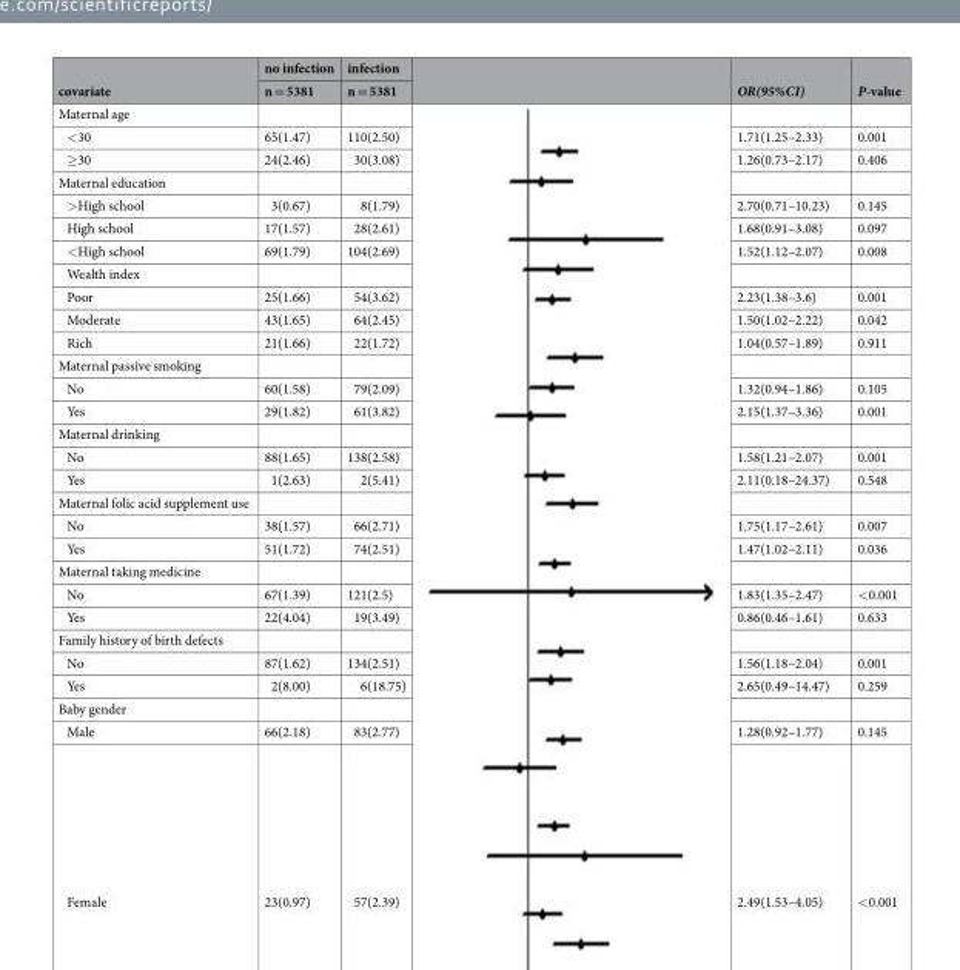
<table><thead><tr><td rowspan="2">covariate</td><td rowspan="2">no infection n = 5381</td><td rowspan="2">infection n = 5381</td><td rowspan="2">OR(95%CI)</td><td rowspan="2">P-value</td></tr><tr></tr></thead><tbody><tr><td colspan="5">Maternal age</td></tr><tr><td>&lt;30</td><td>65(1.47)</td><td>110(2.50)</td><td>1.71(1.25–2.33)</td><td>0.001</td></tr><tr><td>≥30</td><td>24(2.46)</td><td>30(3.08)</td><td>1.26(0.73–2.17)</td><td>0.406</td></tr><tr><td colspan="5">Maternal education</td></tr><tr><td>&gt;High school</td><td>3(0.67)</td><td>8(1.79)</td><td>2.70(0.71–10.23)</td><td>0.145</td></tr><tr><td>High school</td><td>17(1.57)</td><td>28(2.61)</td><td>1.68(0.91–3.08)</td><td>0.097</td></tr><tr><td>&lt;High school</td><td>69(1.79)</td><td>104(2.69)</td><td>1.52(1.12–2.07)</td><td>0.008</td></tr><tr><td colspan="5">Wealth index</td></tr><tr><td>Poor</td><td>25(1.66)</td><td>54(3.62)</td><td>2.23(1.38–3.6)</td><td>0.001</td></tr><tr><td>Moderate</td><td>43(1.65)</td><td>64(2.45)</td><td>1.50(1.02–2.22)</td><td>0.042</td></tr><tr><td>Rich</td><td>21(1.66)</td><td>22(1.72)</td><td>1.04(0.57–1.89)</td><td>0.911</td></tr><tr><td colspan="5">Maternal passive smoking</td></tr><tr><td>No</td><td>60(1.58)</td><td>79(2.09)</td><td>1.32(0.94–1.86)</td><td>0.105</td></tr><tr><td>Yes</td><td>29(1.82)</td><td>61(3.82)</td><td>2.15(1.37–3.36)</td><td>0.001</td></tr><tr><td colspan="5">Maternal drinking</td></tr><tr><td>No</td><td>88(1.65)</td><td>138(2.58)</td><td>1.58(1.21–2.07)</td><td>0.001</td></tr><tr><td>Yes</td><td>1(2.63)</td><td>2(5.41)</td><td>2.11(0.18–24.37)</td><td>0.548</td></tr><tr><td colspan="5">Maternal folic acid supplement use</td></tr><tr><td>No</td><td>38(1.57)</td><td>66(2.71)</td><td>1.75(1.17–2.61)</td><td>0.007</td></tr><tr><td>Yes</td><td>51(1.72)</td><td>74(2.51)</td><td>1.47(1.02–2.11)</td><td>0.036</td></tr><tr><td colspan="5">Maternal taking medicine</td></tr><tr><td>No</td><td>67(1.39)</td><td>121(2.5)</td><td>1.83(1.35–2.47)</td><td>&lt;0.001</td></tr><tr><td>Yes</td><td>22(4.04)</td><td>19(3.49)</td><td>0.86(0.46–1.61)</td><td>0.633</td></tr><tr><td colspan="5">Family history of birth defects</td></tr><tr><td>No</td><td>87(1.62)</td><td>134(2.51)</td><td>1.56(1.18–2.04)</td><td>0.001</td></tr><tr><td>Yes</td><td>2(8.00)</td><td>6(18.75)</td><td>2.65(0.49–14.47)</td><td>0.259</td></tr><tr><td colspan="5">Baby gender</td></tr><tr><td>Male</td><td>66(2.18)</td><td>83(2.77)</td><td>1.28(0.92–1.77)</td><td>0.145</td></tr><tr><td>Female</td><td>23(0.97)</td><td>57(2.39)</td><td>2.49(1.53–4.05)</td><td>&lt;0.001</td></tr></tbody></table>